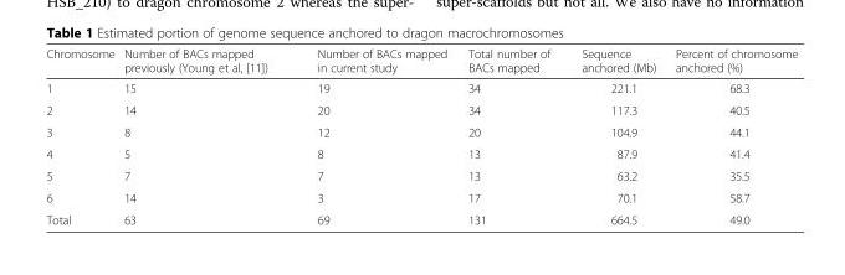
<table><thead><tr><td>Chromosome</td><td>Number of BACs mapped previously (Young et al, [11])</td><td>Number of BACs mapped in current study</td><td>Total number of BACs mapped</td><td>Sequence anchored (Mb)</td><td>Percent of chromosome anchored (%)</td></tr></thead><tbody><tr><td>1</td><td>15</td><td>19</td><td>34</td><td>221.1</td><td>68.3</td></tr><tr><td>2</td><td>14</td><td>20</td><td>34</td><td>117.3</td><td>40.5</td></tr><tr><td>3</td><td>8</td><td>12</td><td>20</td><td>104.9</td><td>44.1</td></tr><tr><td>4</td><td>5</td><td>8</td><td>13</td><td>87.9</td><td>41.4</td></tr><tr><td>5</td><td>7</td><td>7</td><td>13</td><td>63.2</td><td>35.5</td></tr><tr><td>6</td><td>14</td><td>3</td><td>17</td><td>70.1</td><td>58.7</td></tr><tr><td>Total</td><td>63</td><td>69</td><td>131</td><td>664.5</td><td>49.0</td></tr></tbody></table>